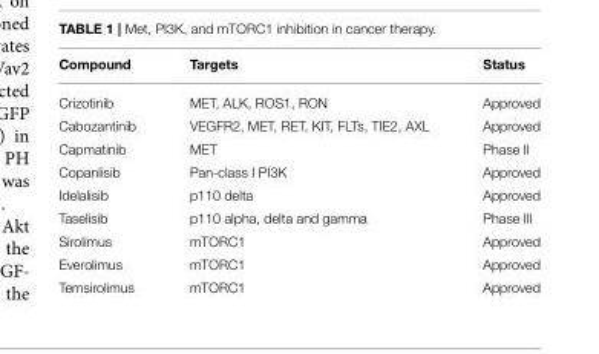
<table><thead><tr><td>Compound</td><td>Targets</td><td>Status</td></tr></thead><tbody><tr><td>Crizotinib</td><td>MET, ALK, ROS1, RON</td><td>Approved</td></tr><tr><td>Cabozantinib</td><td>VEGFR2, MET, RET, KIT, FLTs, TIE2, AXL</td><td>Approved</td></tr><tr><td>Capmatinib</td><td>MET</td><td>Phase II</td></tr><tr><td>Copanlisib</td><td>Pan-class I PI3K</td><td>Approved</td></tr><tr><td>Idelalisib</td><td>p110 delta</td><td>Approved</td></tr><tr><td>Taselisib</td><td>p110 alpha, delta and gamma</td><td>Phase III</td></tr><tr><td>Sirolimus</td><td>mTORC1</td><td>Approved</td></tr><tr><td>Everolimus</td><td>mTORC1</td><td>Approved</td></tr><tr><td>Temsirolimus</td><td>mTORC1</td><td>Approved</td></tr></tbody></table>